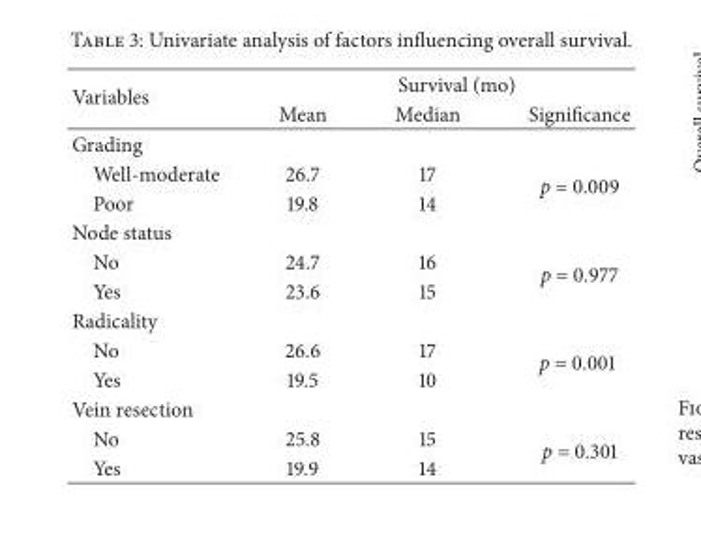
<table><thead><tr><td rowspan="2">Variables</td><td colspan="3">Survival (mo)</td></tr><tr><td>Mean</td><td>Median</td><td>Significance</td></tr></thead><tbody><tr><td colspan="4">Grading</td></tr><tr><td>Well-moderate</td><td>26.7</td><td>17</td><td rowspan="2">p = 0.009</td></tr><tr><td>Poor</td><td>19.8</td><td>14</td></tr><tr><td colspan="4">Node status</td></tr><tr><td>No</td><td>24.7</td><td>16</td><td rowspan="2">p = 0.977</td></tr><tr><td>Yes</td><td>23.6</td><td>15</td></tr><tr><td colspan="4">Radicality</td></tr><tr><td>No</td><td>26.6</td><td>17</td><td rowspan="2">p = 0.001</td></tr><tr><td>Yes</td><td>19.5</td><td>10</td></tr><tr><td colspan="4">Vein resection</td></tr><tr><td>No</td><td>25.8</td><td>15</td><td rowspan="2">p = 0.301</td></tr><tr><td>Yes</td><td>19.9</td><td>14</td></tr></tbody></table>